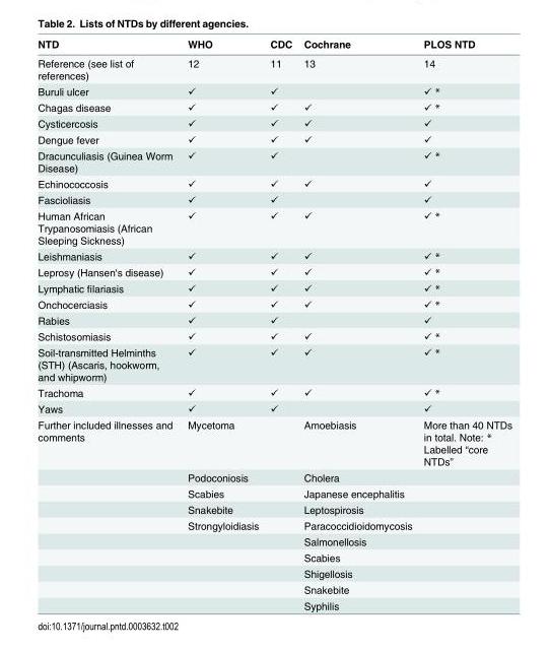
<table><thead><tr><td>NTD</td><td>WHO</td><td>CDC</td><td>Cochrane</td><td>PLOS NTD</td></tr></thead><tbody><tr><td>Reference (see list of references)</td><td>12</td><td>11</td><td>13</td><td>14</td></tr><tr><td>Buruli ulcer</td><td>✓</td><td>✓</td><td></td><td>✓ *</td></tr><tr><td>Chagas disease</td><td>✓</td><td>✓</td><td>✓</td><td>✓ *</td></tr><tr><td>Cysticercosis</td><td>✓</td><td>✓</td><td>✓</td><td>✓</td></tr><tr><td>Dengue fever</td><td>✓</td><td>✓</td><td>✓</td><td>✓</td></tr><tr><td>Dracunculiasis (Guinea Worm Disease)</td><td>✓</td><td>✓</td><td></td><td>✓ *</td></tr><tr><td>Echinococcosis</td><td>✓</td><td>✓</td><td>✓</td><td>✓</td></tr><tr><td>Fascioliasis</td><td>✓</td><td>✓</td><td></td><td>✓</td></tr><tr><td>Human African Trypanosomiasis (African Sleeping Sickness)</td><td>✓</td><td>✓</td><td>✓</td><td>✓ *</td></tr><tr><td>Leishmaniasis</td><td>✓</td><td>✓</td><td>✓</td><td>✓ *</td></tr><tr><td>Leprosy (Hansen&#x27;s disease)</td><td>✓</td><td>✓</td><td>✓</td><td>✓ *</td></tr><tr><td>Lymphatic filariasis</td><td>✓</td><td>✓</td><td>✓</td><td>✓ *</td></tr><tr><td>Onchocerciasis</td><td>✓</td><td>✓</td><td>✓</td><td>✓ *</td></tr><tr><td>Rabies</td><td>✓</td><td>✓</td><td></td><td>✓</td></tr><tr><td>Schistosomiasis</td><td>✓</td><td>✓</td><td>✓</td><td>✓ *</td></tr><tr><td>Soil-transmitted Helminths (STH) (Ascaris, hookworm, and whipworm)</td><td>✓</td><td>✓</td><td>✓</td><td>✓ *</td></tr><tr><td>Trachoma</td><td>✓</td><td>✓</td><td>✓</td><td>✓ *</td></tr><tr><td>Yaws</td><td>✓</td><td>✓</td><td></td><td>✓</td></tr><tr><td rowspan="10">Further included illnesses and comments</td><td>Mycetoma</td><td></td><td>Amoebiasis</td><td>More than 40 NTDs in total. Note: * Labelled “core NTDs”</td></tr><tr><td>Podoconiosis</td><td></td><td>Cholera</td><td></td></tr><tr><td>Scabies</td><td></td><td>Japanese encephalitis</td><td></td></tr><tr><td>Snakebite</td><td></td><td>Leptospirosis</td><td></td></tr><tr><td>Strongyloidiasis</td><td></td><td>Paracoccidioidomycosis</td><td></td></tr><tr><td></td><td></td><td>Salmonellosis</td><td></td></tr><tr><td></td><td></td><td>Scabies</td><td></td></tr><tr><td></td><td></td><td>Shigellosis</td><td></td></tr><tr><td></td><td></td><td>Snakebite</td><td></td></tr><tr><td></td><td></td><td>Syphilis</td><td></td></tr></tbody></table>